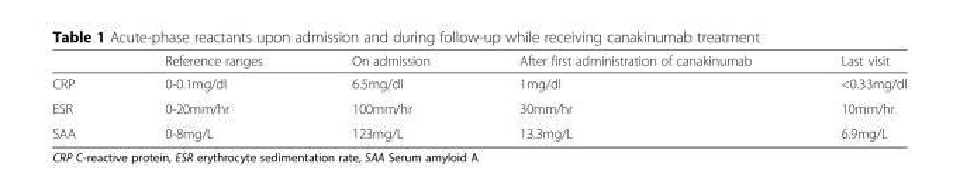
<table><thead><tr><td></td><td>Reference ranges</td><td>On admission</td><td>After first administration of canakinumab</td><td>Last visit</td></tr></thead><tbody><tr><td>CRP</td><td>0-0.1mg/dl</td><td>6.5mg/dl</td><td>1mg/dl</td><td>&lt;0.33mg/dl</td></tr><tr><td>ESR</td><td>0-20mm/hr</td><td>100mm/hr</td><td>30mm/hr</td><td>10mm/hr</td></tr><tr><td>SAA</td><td>0-8mg/L</td><td>123mg/L</td><td>13.3mg/L</td><td>6.9mg/L</td></tr></tbody></table>